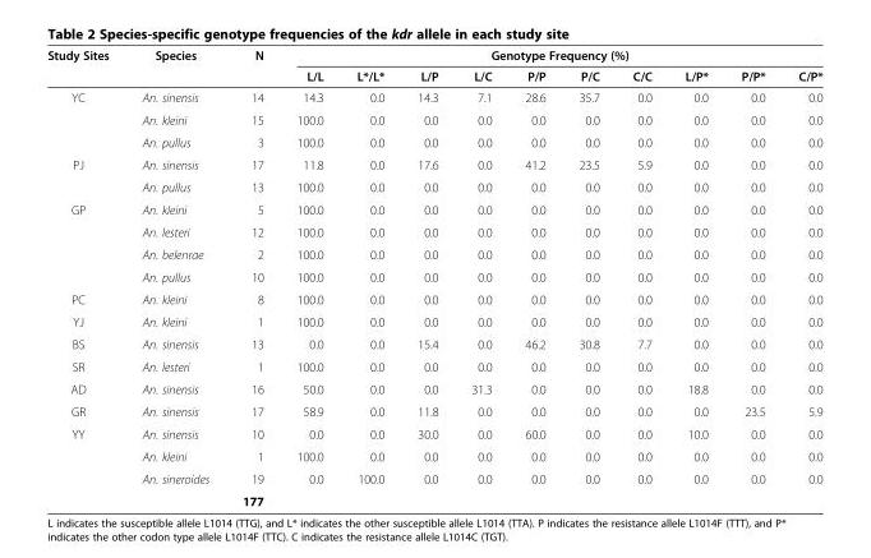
<table><thead><tr><td rowspan="2">Study Sites</td><td rowspan="2">Species</td><td rowspan="2">N</td><td colspan="10">Genotype Frequency (%)</td></tr><tr><td>L/L</td><td>L*/L*</td><td>L/P</td><td>L/C</td><td>P/P</td><td>P/C</td><td>C/C</td><td>L/P*</td><td>P/P*</td><td>C/P*</td></tr></thead><tbody><tr><td rowspan="3">YC</td><td>An. sinensis</td><td>14</td><td>14.3</td><td>0.0</td><td>14.3</td><td>7.1</td><td>28.6</td><td>35.7</td><td>0.0</td><td>0.0</td><td>0.0</td><td>0.0</td></tr><tr><td>An. kleini</td><td>15</td><td>100.0</td><td>0.0</td><td>0.0</td><td>0.0</td><td>0.0</td><td>0.0</td><td>0.0</td><td>0.0</td><td>0.0</td><td>0.0</td></tr><tr><td>An. pullus</td><td>3</td><td>100.0</td><td>0.0</td><td>0.0</td><td>0.0</td><td>0.0</td><td>0.0</td><td>0.0</td><td>0.0</td><td>0.0</td><td>0.0</td></tr><tr><td rowspan="2">PJ</td><td>An. sinensis</td><td>17</td><td>11.8</td><td>0.0</td><td>17.6</td><td>0.0</td><td>41.2</td><td>23.5</td><td>5.9</td><td>0.0</td><td>0.0</td><td>0.0</td></tr><tr><td>An. pullus</td><td>13</td><td>100.0</td><td>0.0</td><td>0.0</td><td>0.0</td><td>0.0</td><td>0.0</td><td>0.0</td><td>0.0</td><td>0.0</td><td>0.0</td></tr><tr><td rowspan="4">GP</td><td>An. kleini</td><td>5</td><td>100.0</td><td>0.0</td><td>0.0</td><td>0.0</td><td>0.0</td><td>0.0</td><td>0.0</td><td>0.0</td><td>0.0</td><td>0.0</td></tr><tr><td>An. lesteri</td><td>12</td><td>100.0</td><td>0.0</td><td>0.0</td><td>0.0</td><td>0.0</td><td>0.0</td><td>0.0</td><td>0.0</td><td>0.0</td><td>0.0</td></tr><tr><td>An. belenrae</td><td>2</td><td>100.0</td><td>0.0</td><td>0.0</td><td>0.0</td><td>0.0</td><td>0.0</td><td>0.0</td><td>0.0</td><td>0.0</td><td>0.0</td></tr><tr><td>An. pullus</td><td>10</td><td>100.0</td><td>0.0</td><td>0.0</td><td>0.0</td><td>0.0</td><td>0.0</td><td>0.0</td><td>0.0</td><td>0.0</td><td>0.0</td></tr><tr><td>PC</td><td>An. kleini</td><td>8</td><td>100.0</td><td>0.0</td><td>0.0</td><td>0.0</td><td>0.0</td><td>0.0</td><td>0.0</td><td>0.0</td><td>0.0</td><td>0.0</td></tr><tr><td>YJ</td><td>An. kleini</td><td>1</td><td>100.0</td><td>0.0</td><td>0.0</td><td>0.0</td><td>0.0</td><td>0.0</td><td>0.0</td><td>0.0</td><td>0.0</td><td>0.0</td></tr><tr><td>BS</td><td>An. sinensis</td><td>13</td><td>0.0</td><td>0.0</td><td>15.4</td><td>0.0</td><td>46.2</td><td>30.8</td><td>7.7</td><td>0.0</td><td>0.0</td><td>0.0</td></tr><tr><td>SR</td><td>An. lesteri</td><td>1</td><td>100.0</td><td>0.0</td><td>0.0</td><td>0.0</td><td>0.0</td><td>0.0</td><td>0.0</td><td>0.0</td><td>0.0</td><td>0.0</td></tr><tr><td>AD</td><td>An. sinensis</td><td>16</td><td>50.0</td><td>0.0</td><td>0.0</td><td>31.3</td><td>0.0</td><td>0.0</td><td>0.0</td><td>18.8</td><td>0.0</td><td>0.0</td></tr><tr><td>GR</td><td>An. sinensis</td><td>17</td><td>58.9</td><td>0.0</td><td>11.8</td><td>0.0</td><td>0.0</td><td>0.0</td><td>0.0</td><td>0.0</td><td>23.5</td><td>5.9</td></tr><tr><td rowspan="4">YY</td><td>An. sinensis</td><td>10</td><td>0.0</td><td>0.0</td><td>30.0</td><td>0.0</td><td>60.0</td><td>0.0</td><td>0.0</td><td>10.0</td><td>0.0</td><td>0.0</td></tr><tr><td>An. kleini</td><td>1</td><td>100.0</td><td>0.0</td><td>0.0</td><td>0.0</td><td>0.0</td><td>0.0</td><td>0.0</td><td>0.0</td><td>0.0</td><td>0.0</td></tr><tr><td>An. sineroides</td><td>19</td><td>0.0</td><td>100.0</td><td>0.0</td><td>0.0</td><td>0.0</td><td>0.0</td><td>0.0</td><td>0.0</td><td>0.0</td><td>0.0</td></tr><tr><td></td><td>177</td><td></td><td></td><td></td><td></td><td></td><td></td><td></td><td></td><td></td><td></td></tr></tbody></table>